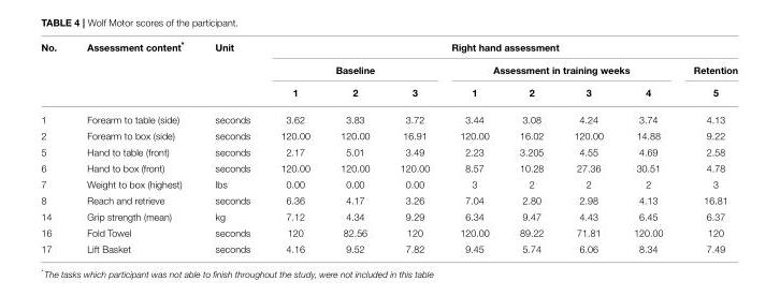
<table><thead><tr><td rowspan="3">No.</td><td rowspan="3">Assessment content*</td><td rowspan="3">Unit</td><td colspan="8">Right hand assessment</td></tr><tr><td colspan="3">Baseline</td><td colspan="4">Assessment in training weeks</td><td rowspan="2">Retention 5</td></tr><tr><td>1</td><td>2</td><td>3</td><td>1</td><td>2</td><td>3</td><td>4</td></tr></thead><tbody><tr><td>1</td><td>Forearm to table (side)</td><td>seconds</td><td>3.62</td><td>3.83</td><td>3.72</td><td>3.44</td><td>3.08</td><td>4.24</td><td>3.74</td><td>4.13</td></tr><tr><td>2</td><td>Forearm to box (side)</td><td>seconds</td><td>120.00</td><td>120.00</td><td>16.91</td><td>120.00</td><td>16.02</td><td>120.00</td><td>14.88</td><td>9.22</td></tr><tr><td>5</td><td>Hand to table (front)</td><td>seconds</td><td>2.17</td><td>5.01</td><td>3.49</td><td>2.23</td><td>3.205</td><td>4.55</td><td>4.69</td><td>2.58</td></tr><tr><td>6</td><td>Hand to box (front)</td><td>seconds</td><td>120.00</td><td>120.00</td><td>120.00</td><td>8.57</td><td>10.28</td><td>27.36</td><td>30.51</td><td>4.78</td></tr><tr><td>7</td><td>Weight to box (highest)</td><td>lbs</td><td>0.00</td><td>0.00</td><td>0.00</td><td>3</td><td>2</td><td>2</td><td>2</td><td>3</td></tr><tr><td>8</td><td>Reach and retrieve</td><td>seconds</td><td>6.36</td><td>4.17</td><td>3.26</td><td>7.04</td><td>2.80</td><td>2.98</td><td>4.13</td><td>16.81</td></tr><tr><td>14</td><td>Grip strength (mean)</td><td>kg</td><td>7.12</td><td>4.34</td><td>9.29</td><td>6.34</td><td>9.47</td><td>4.43</td><td>6.45</td><td>6.37</td></tr><tr><td>16</td><td>Fold Towel</td><td>seconds</td><td>120</td><td>82.56</td><td>120</td><td>120.00</td><td>89.22</td><td>71.81</td><td>120.00</td><td>120</td></tr><tr><td>17</td><td>Lift Basket</td><td>seconds</td><td>4.16</td><td>9.52</td><td>7.82</td><td>9.45</td><td>5.74</td><td>6.06</td><td>8.34</td><td>7.49</td></tr></tbody></table>